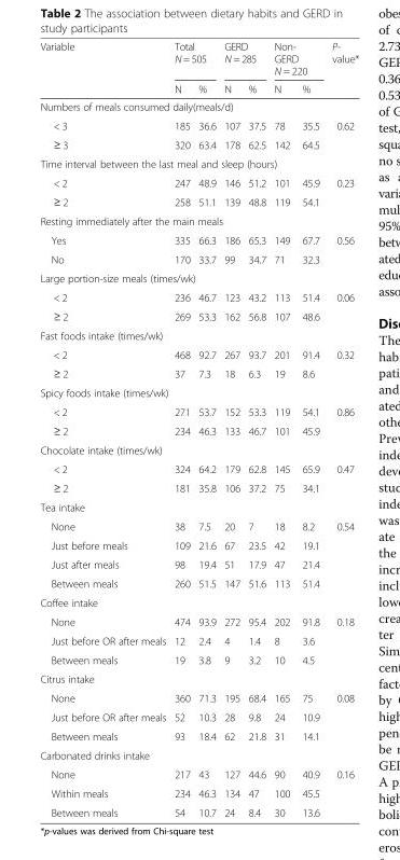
<table><thead><tr><td rowspan="2">Variable</td><td colspan="2">Total N = 505</td><td colspan="2">GERD N = 285</td><td colspan="2">Non- GERD N = 220</td><td rowspan="2">P- value*</td></tr><tr><td>N</td><td>%</td><td>N</td><td>%</td><td>N</td><td>%</td></tr></thead><tbody><tr><td colspan="8">Numbers of meals consumed daily(meals/d)</td></tr><tr><td>&lt; 3</td><td>185</td><td>36.6</td><td>107</td><td>37.5</td><td>78</td><td>35.5</td><td rowspan="2">0.62</td></tr><tr><td>≥ 3</td><td>320</td><td>63.4</td><td>178</td><td>62.5</td><td>142</td><td>64.5</td></tr><tr><td colspan="8">Time interval between the last meal and sleep (hours)</td></tr><tr><td>&lt; 2</td><td>247</td><td>48.9</td><td>146</td><td>51.2</td><td>101</td><td>45.9</td><td rowspan="2">0.23</td></tr><tr><td>≥ 2</td><td>258</td><td>51.1</td><td>139</td><td>48.8</td><td>119</td><td>54.1</td></tr><tr><td colspan="8">Resting immediately after the main meals</td></tr><tr><td>Yes</td><td>335</td><td>66.3</td><td>186</td><td>65.3</td><td>149</td><td>67.7</td><td rowspan="2">0.56</td></tr><tr><td>No</td><td>170</td><td>33.7</td><td>99</td><td>34.7</td><td>71</td><td>32.3</td></tr><tr><td colspan="8">Large portion-size meals (times/wk)</td></tr><tr><td>&lt; 2</td><td>236</td><td>46.7</td><td>123</td><td>43.2</td><td>113</td><td>51.4</td><td rowspan="2">0.06</td></tr><tr><td>≥ 2</td><td>269</td><td>53.3</td><td>162</td><td>56.8</td><td>107</td><td>48.6</td></tr><tr><td colspan="8">Fast foods intake (times/wk)</td></tr><tr><td>&lt; 2</td><td>468</td><td>92.7</td><td>267</td><td>93.7</td><td>201</td><td>91.4</td><td rowspan="2">0.32</td></tr><tr><td>≥ 2</td><td>37</td><td>7.3</td><td>18</td><td>6.3</td><td>19</td><td>8.6</td></tr><tr><td colspan="8">Spicy foods intake (times/wk)</td></tr><tr><td>&lt; 2</td><td>271</td><td>53.7</td><td>152</td><td>53.3</td><td>119</td><td>54.1</td><td rowspan="2">0.86</td></tr><tr><td>≥ 2</td><td>234</td><td>46.3</td><td>133</td><td>46.7</td><td>101</td><td>45.9</td></tr><tr><td colspan="8">Chocolate intake (times/wk)</td></tr><tr><td>&lt; 2</td><td>324</td><td>64.2</td><td>179</td><td>62.8</td><td>145</td><td>65.9</td><td rowspan="2">0.47</td></tr><tr><td>≥ 2</td><td>181</td><td>35.8</td><td>106</td><td>37.2</td><td>75</td><td>34.1</td></tr><tr><td colspan="8">Tea intake</td></tr><tr><td>None</td><td>38</td><td>7.5</td><td>20</td><td>7</td><td>18</td><td>8.2</td><td rowspan="4">0.54</td></tr><tr><td>Just before meals</td><td>109</td><td>21.6</td><td>67</td><td>23.5</td><td>42</td><td>19.1</td></tr><tr><td>Just after meals</td><td>98</td><td>19.4</td><td>51</td><td>17.9</td><td>47</td><td>21.4</td></tr><tr><td>Between meals</td><td>260</td><td>51.5</td><td>147</td><td>51.6</td><td>113</td><td>51.4</td></tr><tr><td colspan="8">Coffee intake</td></tr><tr><td>None</td><td>474</td><td>93.9</td><td>272</td><td>95.4</td><td>202</td><td>91.8</td><td rowspan="3">0.18</td></tr><tr><td>Just before OR after meals</td><td>12</td><td>2.4</td><td>4</td><td>1.4</td><td>8</td><td>3.6</td></tr><tr><td>Between meals</td><td>19</td><td>3.8</td><td>9</td><td>3.2</td><td>10</td><td>4.5</td></tr><tr><td colspan="8">Citrus intake</td></tr><tr><td>None</td><td>360</td><td>71.3</td><td>195</td><td>68.4</td><td>165</td><td>75</td><td rowspan="3">0.08</td></tr><tr><td>Just before OR after meals</td><td>52</td><td>10.3</td><td>28</td><td>9.8</td><td>24</td><td>10.9</td></tr><tr><td>Between meals</td><td>93</td><td>18.4</td><td>62</td><td>21.8</td><td>31</td><td>14.1</td></tr><tr><td colspan="8">Carbonated drinks intake</td></tr><tr><td>None</td><td>217</td><td>43</td><td>127</td><td>44.6</td><td>90</td><td>40.9</td><td rowspan="3">0.16</td></tr><tr><td>Within meals</td><td>234</td><td>46.3</td><td>134</td><td>47</td><td>100</td><td>45.5</td></tr><tr><td>Between meals</td><td>54</td><td>10.7</td><td>24</td><td>8.4</td><td>30</td><td>13.6</td></tr></tbody></table>